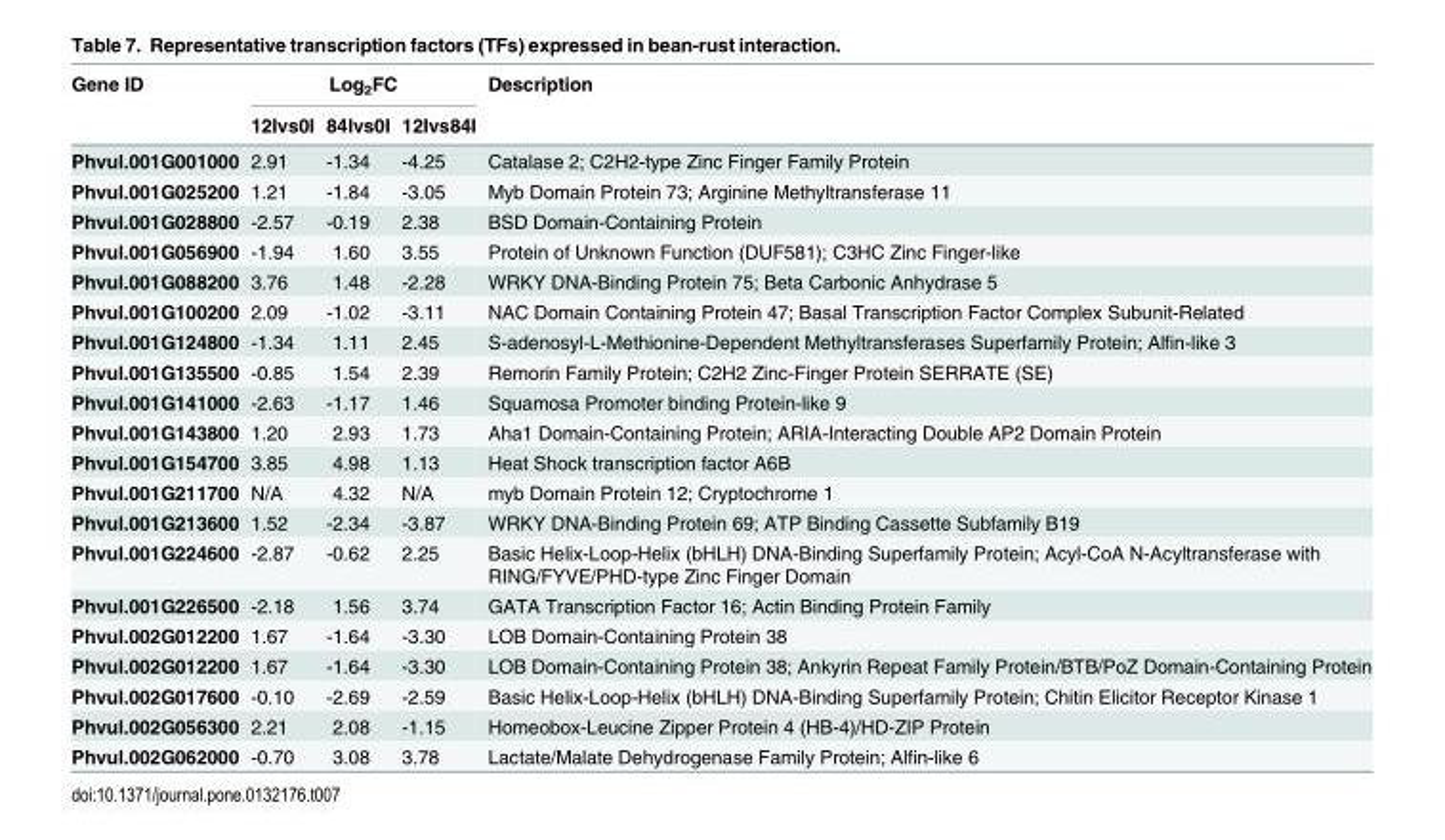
<table><thead><tr><td rowspan="2">Gene ID</td><td colspan="3">Log<sub>2</sub>FC</td><td rowspan="2">Description</td></tr><tr><td>12Ivs0I</td><td>84Ivs0I</td><td>12Ivs84I</td></tr></thead><tbody><tr><td>Phvul.001G001000</td><td>2.91</td><td>-1.34</td><td>-4.25</td><td>Catalase 2; C2H2-type Zinc Finger Family Protein</td></tr><tr><td>Phvul.001G025200</td><td>1.21</td><td>-1.84</td><td>-3.05</td><td>Myb Domain Protein 73; Arginine Methyltransferase 11</td></tr><tr><td>Phvul.001G028800</td><td>-2.57</td><td>-0.19</td><td>2.38</td><td>BSD Domain-Containing Protein</td></tr><tr><td>Phvul.001G056900</td><td>-1.94</td><td>1.60</td><td>3.55</td><td>Protein of Unknown Function (DUF581); C3HC Zinc Finger-like</td></tr><tr><td>Phvul.001G088200</td><td>3.76</td><td>1.48</td><td>-2.28</td><td>WRKY DNA-Binding Protein 75; Beta Carbonic Anhydrase 5</td></tr><tr><td>Phvul.001G100200</td><td>2.09</td><td>-1.02</td><td>-3.11</td><td>NAC Domain Containing Protein 47; Basal Transcription Factor Complex Subunit-Related</td></tr><tr><td>Phvul.001G124800</td><td>-1.34</td><td>1.11</td><td>2.45</td><td>S-adenosyl-L-Methionine-Dependent Methyltransferases Superfamily Protein; Alfin-like 3</td></tr><tr><td>Phvul.001G135500</td><td>-0.85</td><td>1.54</td><td>2.39</td><td>Remorin Family Protein; C2H2 Zinc-Finger Protein SERRATE (SE)</td></tr><tr><td>Phvul.001G141000</td><td>-2.63</td><td>-1.17</td><td>1.46</td><td>Squamosa Promoter binding Protein-like 9</td></tr><tr><td>Phvul.001G143800</td><td>1.20</td><td>2.93</td><td>1.73</td><td>Aha1 Domain-Containing Protein; ARIA-Interacting Double AP2 Domain Protein</td></tr><tr><td>Phvul.001G154700</td><td>3.85</td><td>4.98</td><td>1.13</td><td>Heat Shock transcription factor A6B</td></tr><tr><td>Phvul.001G211700</td><td>N/A</td><td>4.32</td><td>N/A</td><td>myb Domain Protein 12; Cryptochrome 1</td></tr><tr><td>Phvul.001G213600</td><td>1.52</td><td>-2.34</td><td>-3.87</td><td>WRKY DNA-Binding Protein 69; ATP Binding Cassette Subfamily B19</td></tr><tr><td>Phvul.001G224600</td><td>-2.87</td><td>-0.62</td><td>2.25</td><td>Basic Helix-Loop-Helix (bHLH) DNA-Binding Superfamily Protein; Acyl-CoA N-Acyltransferase with RING/FYVE/PHD-type Zinc Finger Domain</td></tr><tr><td>Phvul.001G226500</td><td>-2.18</td><td>1.56</td><td>3.74</td><td>GATA Transcription Factor 16; Actin Binding Protein Family</td></tr><tr><td>Phvul.002G012200</td><td>1.67</td><td>-1.64</td><td>-3.30</td><td>LOB Domain-Containing Protein 38</td></tr><tr><td>Phvul.002G012200</td><td>1.67</td><td>-1.64</td><td>-3.30</td><td>LOB Domain-Containing Protein 38; Ankyrin Repeat Family Protein/BTB/PoZ Domain-Containing Protein</td></tr><tr><td>Phvul.002G017600</td><td>-0.10</td><td>-2.69</td><td>-2.59</td><td>Basic Helix-Loop-Helix (bHLH) DNA-Binding Superfamily Protein; Chitin Elicitor Receptor Kinase 1</td></tr><tr><td>Phvul.002G056300</td><td>2.21</td><td>2.08</td><td>-1.15</td><td>Homeobox-Leucine Zipper Protein 4 (HB-4)/HD-ZIP Protein</td></tr><tr><td>Phvul.002G062000</td><td>-0.70</td><td>3.08</td><td>3.78</td><td>Lactate/Malate Dehydrogenase Family Protein; Alfin-like 6</td></tr></tbody></table>